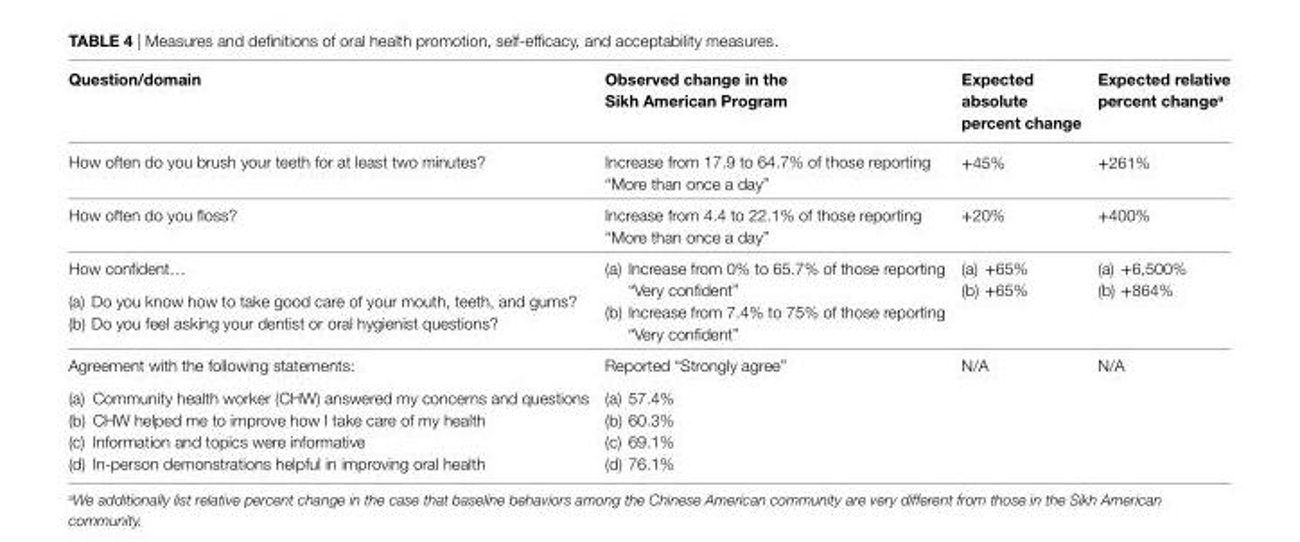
<table><thead><tr><td>Question/domain</td><td>observed change in the sikh American Program</td><td>Expected absolute percent change</td><td>Expected relative percent change<sup>a</sup></td></tr></thead><tbody><tr><td>How often do you brush your teeth for at least two minutes?</td><td>Increase from 17.9 to 64.7% of those reporting “More than once a day”</td><td>+45%</td><td>+261%</td></tr><tr><td>How often do you floss?</td><td>Increase from 4.4 to 22.1% of those reporting “More than once a day”</td><td>+20%</td><td>+400%</td></tr><tr><td>How confident… (a) Do you know how to take good care of your mouth, teeth, and gums? (b) Do you feel asking your dentist or oral hygienist questions?</td><td>(a) Increase from 0% to 65.7% of those reporting “Very confident” (b) Increase from 7.4% to 75% of those reporting “Very confident”</td><td>(a) +65% (b) +65%</td><td>(a) +6,500% (b) +864%</td></tr><tr><td>Agreement with the following statements: (a) Community health worker (CHW) answered my concerns and questions (b) CHW helped me to improve how I take care of my health (c) Information and topics were informative (d) In-person demonstrations helpful in improving oral health</td><td>Reported “Strongly agree” (a) 57.4% (b) 60.3% (c) 69.1% (d) 76.1%</td><td>N/A</td><td>N/A</td></tr></tbody></table>